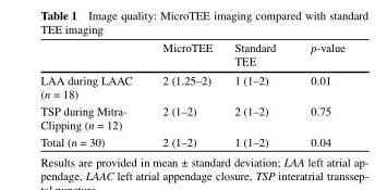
<table><thead><tr><td></td><td>MicroTEE</td><td>Standard TEE</td><td>p-value</td></tr></thead><tbody><tr><td>LAA during LAAC (n = 18)</td><td>2 (1.25–2)</td><td>1 (1–2)</td><td>0.01</td></tr><tr><td>TSP during Mitra- Clipping (n = 12)</td><td>2 (1–2)</td><td>2 (1–2)</td><td>0.75</td></tr><tr><td>Total (n = 30)</td><td>2 (1–2)</td><td>1 (1–2)</td><td>0.04</td></tr></tbody></table>